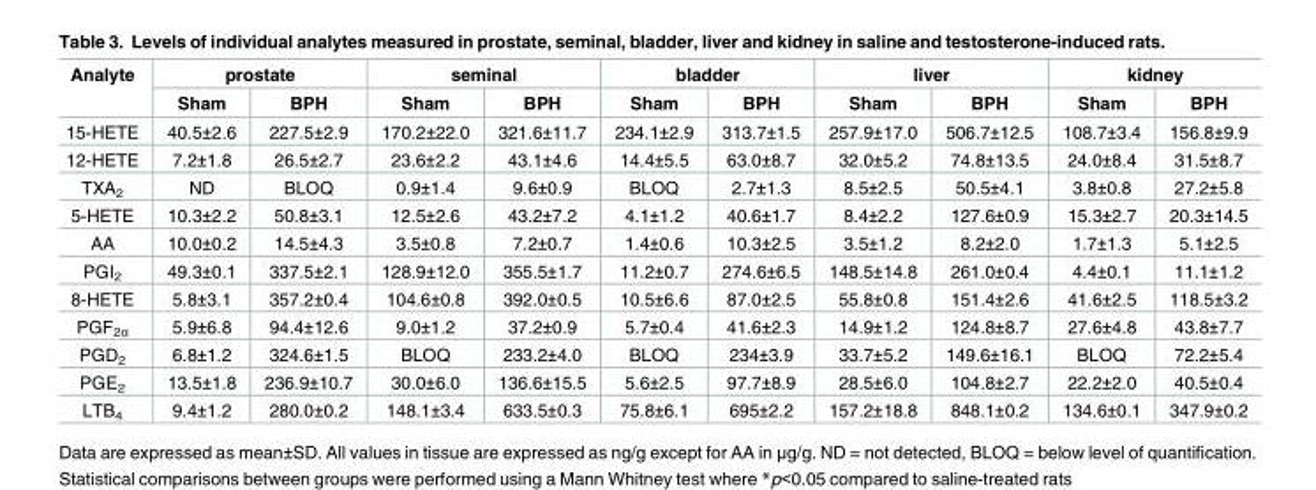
<table><thead><tr><td rowspan="2">Analyte</td><td colspan="2">prostate</td><td colspan="2">seminal</td><td colspan="2">bladder</td><td colspan="2">liver</td><td colspan="2">kidney</td></tr><tr><td>Sham</td><td>BPH</td><td>Sham</td><td>BPH</td><td>Sham</td><td>BPH</td><td>Sham</td><td>BPH</td><td>Sham</td><td>BPH</td></tr></thead><tbody><tr><td>15-HETE</td><td>40.5±2.6</td><td>227.5±2.9</td><td>170.2±22.0</td><td>321.6±11.7</td><td>234.1±2.9</td><td>313.7±1.5</td><td>257.9±17.0</td><td>506.7±12.5</td><td>108.7±3.4</td><td>156.8±9.9</td></tr><tr><td>12-HETE</td><td>7.2±1.8</td><td>26.5±2.7</td><td>23.6±2.2</td><td>43.1±4.6</td><td>14.4±5.5</td><td>63.0±8.7</td><td>32.0±5.2</td><td>74.8±13.5</td><td>24.0±8.4</td><td>31.5±8.7</td></tr><tr><td>TXA<sub>2</sub></td><td>ND</td><td>BLOQ</td><td>0.9±1.4</td><td>9.6±0.9</td><td>BLOQ</td><td>2.7±1.3</td><td>8.5±2.5</td><td>50.5±4.1</td><td>3.8±0.8</td><td>27.2±5.8</td></tr><tr><td>5-HETE</td><td>10.3±2.2</td><td>50.8±3.1</td><td>12.5±2.6</td><td>43.2±7.2</td><td>4.1±1.2</td><td>40.6±1.7</td><td>8.4±2.2</td><td>127.6±0.9</td><td>15.3±2.7</td><td>20.3±14.5</td></tr><tr><td>AA</td><td>10.0±0.2</td><td>14.5±4.3</td><td>3.5±0.8</td><td>7.2±0.7</td><td>1.4±0.6</td><td>10.3±2.5</td><td>3.5±1.2</td><td>8.2±2.0</td><td>1.7±1.3</td><td>5.1±2.5</td></tr><tr><td>PGI<sub>2</sub></td><td>49.3±0.1</td><td>337.5±2.1</td><td>128.9±12.0</td><td>355.5±1.7</td><td>11.2±0.7</td><td>274.6±6.5</td><td>148.5±14.8</td><td>261.0±0.4</td><td>4.4±0.1</td><td>11.1±1.2</td></tr><tr><td>8-HETE</td><td>5.8±3.1</td><td>357.2±0.4</td><td>104.6±0.8</td><td>392.0±0.5</td><td>10.5±6.6</td><td>87.0±2.5</td><td>55.8±0.8</td><td>151.4±2.6</td><td>41.6±2.5</td><td>118.5±3.2</td></tr><tr><td>PGF<sub>2α</sub></td><td>5.9±6.8</td><td>94.4±12.6</td><td>9.0±1.2</td><td>37.2±0.9</td><td>5.7±0.4</td><td>41.6±2.3</td><td>14.9±1.2</td><td>124.8±8.7</td><td>27.6±4.8</td><td>43.8±7.7</td></tr><tr><td>PGD<sub>2</sub></td><td>6.8±1.2</td><td>324.6±1.5</td><td>BLOQ</td><td>233.2±4.0</td><td>BLOQ</td><td>234±3.9</td><td>33.7±5.2</td><td>149.6±16.1</td><td>BLOQ</td><td>72.2±5.4</td></tr><tr><td>PGE<sub>2</sub></td><td>13.5±1.8</td><td>236.9±10.7</td><td>30.0±6.0</td><td>136.6±15.5</td><td>5.6±2.5</td><td>97.7±8.9</td><td>28.5±6.0</td><td>104.8±2.7</td><td>22.2±2.0</td><td>40.5±0.4</td></tr><tr><td>LTB<sub>4</sub></td><td>9.4±1.2</td><td>280.0±0.2</td><td>148.1±3.4</td><td>633.5±0.3</td><td>75.8±6.1</td><td>695±2.2</td><td>157.2±18.8</td><td>848.1±0.2</td><td>134.6±0.1</td><td>347.9±0.2</td></tr></tbody></table>